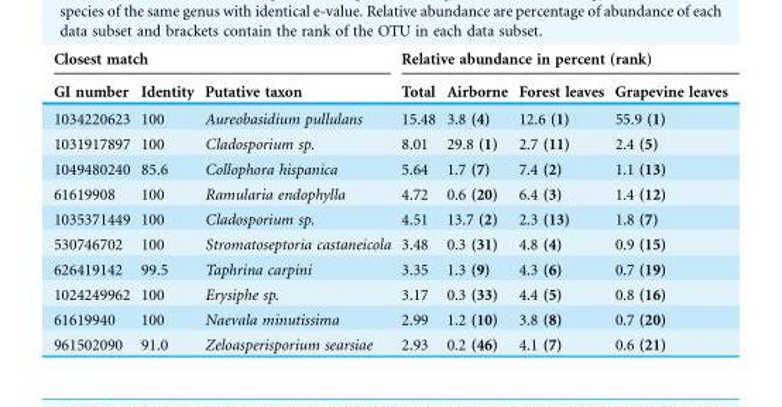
<table><thead><tr><td colspan="3">Closest match</td><td colspan="4">Relative abundance in percent (rank)</td></tr><tr><td>GI number</td><td>Identity</td><td>Putative taxon</td><td>Total</td><td>Airborne</td><td>Forest leaves</td><td>Grapevine leaves</td></tr></thead><tbody><tr><td>1034220623</td><td>100</td><td>Aureobasidium pullulans</td><td>15.48</td><td>3.8 (4)</td><td>12.6 (1)</td><td>55.9 (1)</td></tr><tr><td>1031917897</td><td>100</td><td>Cladosporium sp.</td><td>8.01</td><td>29.8 (1)</td><td>2.7 (11)</td><td>2.4 (5)</td></tr><tr><td>1049480240</td><td>85.6</td><td>Collophora hispanica</td><td>5.64</td><td>1.7 (7)</td><td>7.4 (2)</td><td>1.1 (13)</td></tr><tr><td>61619908</td><td>100</td><td>Ramularia endophylla</td><td>4.72</td><td>0.6 (20)</td><td>6.4 (3)</td><td>1.4 (12)</td></tr><tr><td>1035371449</td><td>100</td><td>Cladosporium sp.</td><td>4.51</td><td>13.7 (2)</td><td>2.3 (13)</td><td>1.8 (7)</td></tr><tr><td>530746702</td><td>100</td><td>Stromatoseptoria castaneicola</td><td>3.48</td><td>0.3 (31)</td><td>4.8 (4)</td><td>0.9 (15)</td></tr><tr><td>626419142</td><td>99.5</td><td>Taphrina carpini</td><td>3.35</td><td>1.3 (9)</td><td>4.3 (6)</td><td>0.7 (19)</td></tr><tr><td>1024249962</td><td>100</td><td>Erysiphe sp.</td><td>3.17</td><td>0.3 (33)</td><td>4.4 (5)</td><td>0.8 (16)</td></tr><tr><td>61619940</td><td>100</td><td>Naevala minutissima</td><td>2.99</td><td>1.2 (10)</td><td>3.8 (8)</td><td>0.7 (20)</td></tr><tr><td>961502090</td><td>91.0</td><td>Zeloasperisporium searsiae</td><td>2.93</td><td>0.2 (46)</td><td>4.1 (7)</td><td>0.6 (21)</td></tr></tbody></table>